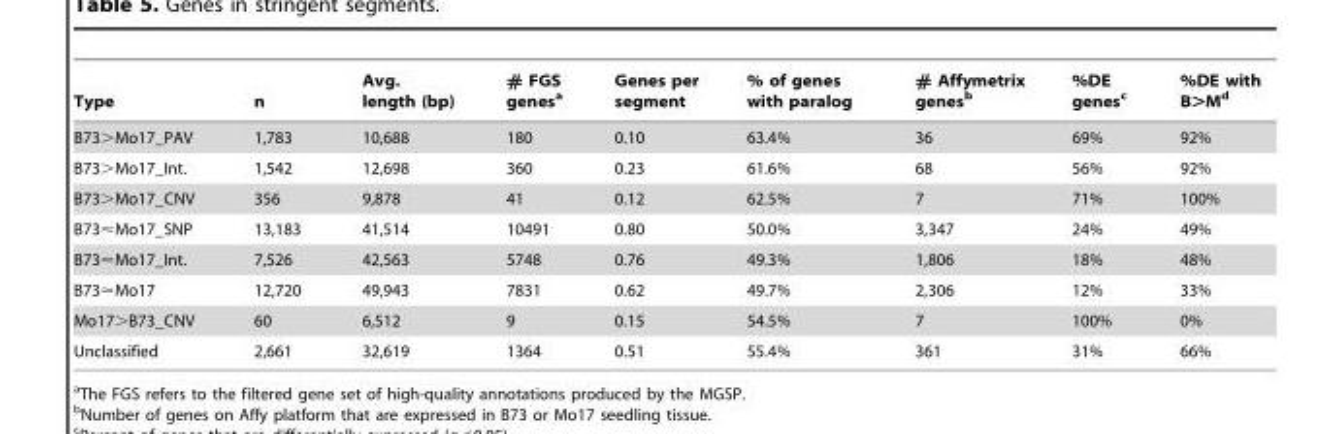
<table><thead><tr><td>Type</td><td>n</td><td>Avg. length (bp)</td><td># FGS genes<sup>a</sup></td><td>Genes per segment</td><td>% of genes with paralog</td><td># Affymetrix genes<sup>b</sup></td><td>%DE genes<sup>c</sup></td><td>%DE with B&gt;M<sup>d</sup></td></tr></thead><tbody><tr><td>B73&gt;Mo17_PAV</td><td>1,783</td><td>10,688</td><td>180</td><td>0.10</td><td>63.4%</td><td>36</td><td>69%</td><td>92%</td></tr><tr><td>B73&gt;Mo17_Int.</td><td>1,542</td><td>12,698</td><td>360</td><td>0.23</td><td>61.6%</td><td>68</td><td>56%</td><td>92%</td></tr><tr><td>B73&gt;Mo17_CNV</td><td>356</td><td>9,878</td><td>41</td><td>0.12</td><td>62.5%</td><td>7</td><td>71%</td><td>100%</td></tr><tr><td>B73&lt;Mo17_SNP</td><td>13,183</td><td>41,514</td><td>10491</td><td>0.80</td><td>50.0%</td><td>3,347</td><td>24%</td><td>49%</td></tr><tr><td>B73&lt;Mo17_Int.</td><td>7,526</td><td>42,563</td><td>5748</td><td>0.76</td><td>49.3%</td><td>1,806</td><td>18%</td><td>48%</td></tr><tr><td>B73&lt;Mo17</td><td>12,720</td><td>49,943</td><td>7831</td><td>0.62</td><td>49.7%</td><td>2,306</td><td>12%</td><td>33%</td></tr><tr><td>Mo17&gt;B73_CNV</td><td>60</td><td>6,512</td><td>9</td><td>0.15</td><td>54.5%</td><td>7</td><td>100%</td><td>0%</td></tr><tr><td>Unclassified</td><td>2,661</td><td>32,619</td><td>1364</td><td>0.51</td><td>55.4%</td><td>361</td><td>31%</td><td>66%</td></tr></tbody></table>